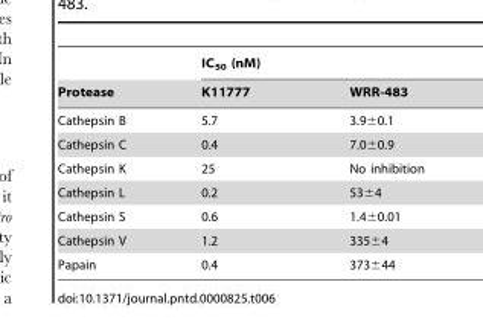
<table><thead><tr><td rowspan="2">Protease</td><td colspan="2">IC<sub>50</sub> (nM)</td></tr><tr><td>K11777</td><td>WRR-483</td></tr></thead><tbody><tr><td>Cathepsin B</td><td>5.7</td><td>3.9±0.1</td></tr><tr><td>Cathepsin C</td><td>0.4</td><td>7.0±0.9</td></tr><tr><td>Cathepsin K</td><td>25</td><td>No inhibition</td></tr><tr><td>Cathepsin L</td><td>0.2</td><td>53±4</td></tr><tr><td>Cathepsin S</td><td>0.6</td><td>1.4±0.01</td></tr><tr><td>Cathepsin V</td><td>1.2</td><td>335±4</td></tr><tr><td>Papain</td><td>0.4</td><td>373±44</td></tr></tbody></table>